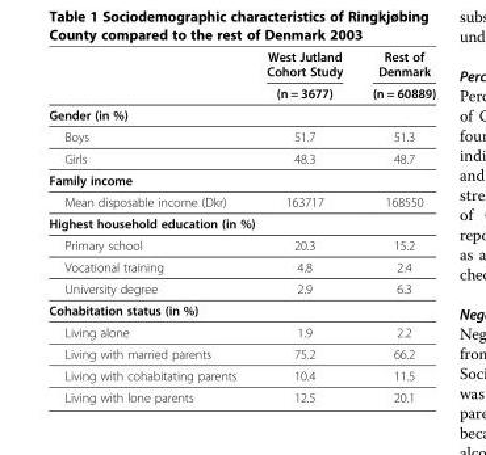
<table><thead><tr><td rowspan="2"></td><td rowspan="2">West Jutland Cohort Study (n = 3677)</td><td rowspan="2">Rest of Denmark (n = 60889)</td></tr><tr></tr></thead><tbody><tr><td colspan="3">Gender (in %)</td></tr><tr><td>Boys</td><td>51.7</td><td>51.3</td></tr><tr><td>Girls</td><td>48.3</td><td>48.7</td></tr><tr><td colspan="3">Family income</td></tr><tr><td>Mean disposable income (Dkr)</td><td>163717</td><td>168550</td></tr><tr><td colspan="3">Highest household education (in %)</td></tr><tr><td>Primary school</td><td>20.3</td><td>15.2</td></tr><tr><td>Vocational training</td><td>4.8</td><td>2.4</td></tr><tr><td>University degree</td><td>2.9</td><td>6.3</td></tr><tr><td colspan="3">Cohabitation status (in %)</td></tr><tr><td>Living alone</td><td>1.9</td><td>2.2</td></tr><tr><td>Living with married parents</td><td>75.2</td><td>66.2</td></tr><tr><td>Living with cohabitating parents</td><td>10.4</td><td>11.5</td></tr><tr><td>Living with lone parents</td><td>12.5</td><td>20.1</td></tr></tbody></table>